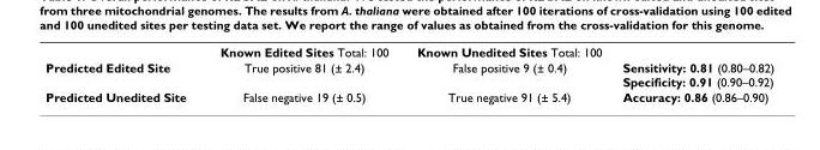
<table><thead><tr><td></td><td>Known Edited Sites Total: 100</td><td>Known Unedited Sites Total: 100</td><td></td></tr></thead><tbody><tr><td>Predicted Edited Site</td><td>True positive 81 (± 2.4)</td><td>False positive 9 (± 0.4)</td><td>Sensitivity: 0.81 (0.80–0.82) Specificity: 0.91 (0.90–0.92)</td></tr><tr><td>Predicted Unedited Site</td><td>False negative 19 (± 0.5)</td><td>True negative 91 (± 5.4)</td><td>Accuracy: 0.86 (0.86–0.90)</td></tr></tbody></table>